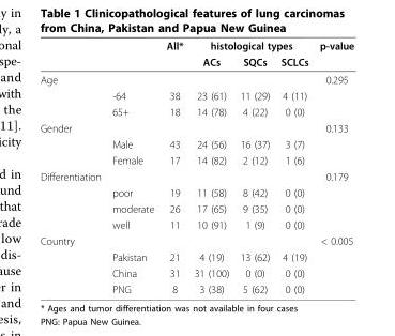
<table><thead><tr><td rowspan="2"></td><td rowspan="2"></td><td rowspan="2">All*</td><td colspan="3">histological types</td><td rowspan="2">p-value</td></tr><tr><td>ACs</td><td>SQCs</td><td>SCLCs</td></tr></thead><tbody><tr><td rowspan="3">Age</td><td></td><td></td><td></td><td></td><td></td><td>0.295</td></tr><tr><td>-64</td><td>38</td><td>23 (61)</td><td>11 (29)</td><td>4 (11)</td><td></td></tr><tr><td>65+</td><td>18</td><td>14 (78)</td><td>4 (22)</td><td>0 (0)</td><td></td></tr><tr><td rowspan="3">Gender</td><td></td><td></td><td></td><td></td><td></td><td>0.133</td></tr><tr><td>Male</td><td>43</td><td>24 (56)</td><td>16 (37)</td><td>3 (7)</td><td></td></tr><tr><td>Female</td><td>17</td><td>14 (82)</td><td>2 (12)</td><td>1 (6)</td><td></td></tr><tr><td rowspan="4">Differentiation</td><td></td><td></td><td></td><td></td><td></td><td>0.179</td></tr><tr><td>poor</td><td>19</td><td>11 (58)</td><td>8 (42)</td><td>0 (0)</td><td></td></tr><tr><td>moderate</td><td>26</td><td>17 (65)</td><td>9 (35)</td><td>0 (0)</td><td></td></tr><tr><td>well</td><td>11</td><td>10 (91)</td><td>1 (9)</td><td>0 (0)</td><td></td></tr><tr><td rowspan="4">Country</td><td></td><td></td><td></td><td></td><td></td><td>&lt; 0.005</td></tr><tr><td>Pakistan</td><td>21</td><td>4 (19)</td><td>13 (62)</td><td>4 (19)</td><td></td></tr><tr><td>China</td><td>31</td><td>31 (100)</td><td>0 (0)</td><td>0 (0)</td><td></td></tr><tr><td>PNG</td><td>8</td><td>3 (38)</td><td>5 (62)</td><td>0 (0)</td><td></td></tr></tbody></table>